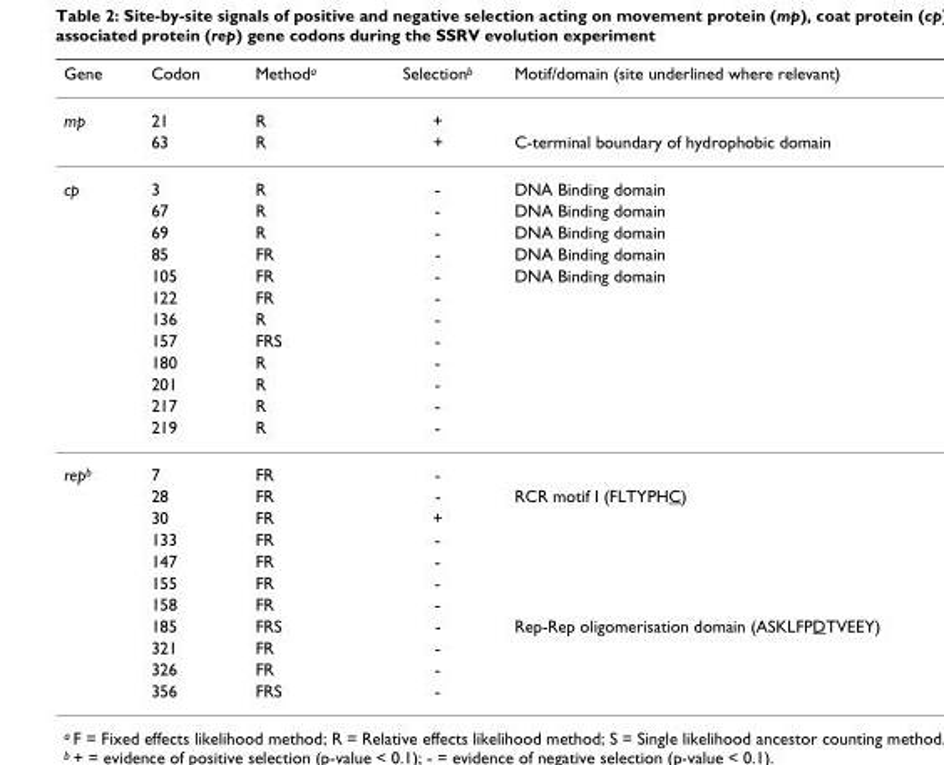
<table><thead><tr><td>Gene</td><td>Codon</td><td>Method<sup>a</sup></td><td>Selection<sup>b</sup></td><td>Motif/domain (site underlined where relevant)</td></tr></thead><tbody><tr><td rowspan="2">mp</td><td>21</td><td>R</td><td>+</td><td></td></tr><tr><td>63</td><td>R</td><td>+</td><td>C-terminal boundary of hydrophobic domain</td></tr><tr><td rowspan="12">cp</td><td>3</td><td>R</td><td>-</td><td>DNA Binding domain</td></tr><tr><td>67</td><td>R</td><td>-</td><td>DNA Binding domain</td></tr><tr><td>69</td><td>R</td><td>-</td><td>DNA Binding domain</td></tr><tr><td>85</td><td>FR</td><td>-</td><td>DNA Binding domain</td></tr><tr><td>105</td><td>FR</td><td>-</td><td>DNA Binding domain</td></tr><tr><td>122</td><td>FR</td><td>-</td><td></td></tr><tr><td>136</td><td>R</td><td>-</td><td></td></tr><tr><td>157</td><td>FRS</td><td>-</td><td></td></tr><tr><td>180</td><td>R</td><td>-</td><td></td></tr><tr><td>201</td><td>R</td><td>-</td><td></td></tr><tr><td>217</td><td>R</td><td>-</td><td></td></tr><tr><td>219</td><td>R</td><td>-</td><td></td></tr><tr><td rowspan="11">rep<sup>b</sup></td><td>7</td><td>FR</td><td>-</td><td></td></tr><tr><td>28</td><td>FR</td><td>-</td><td>RCR motif I (FLTYPHC)</td></tr><tr><td>30</td><td>FR</td><td>+</td><td></td></tr><tr><td>133</td><td>FR</td><td>-</td><td></td></tr><tr><td>147</td><td>FR</td><td>-</td><td></td></tr><tr><td>155</td><td>FR</td><td>-</td><td></td></tr><tr><td>158</td><td>FR</td><td>-</td><td></td></tr><tr><td>185</td><td>FRS</td><td>-</td><td>Rep-Rep oligomerisation domain (ASKLFPDTVEEY)</td></tr><tr><td>321</td><td>FR</td><td>-</td><td></td></tr><tr><td>326</td><td>FR</td><td>-</td><td></td></tr><tr><td>356</td><td>FRS</td><td>-</td><td></td></tr></tbody></table>